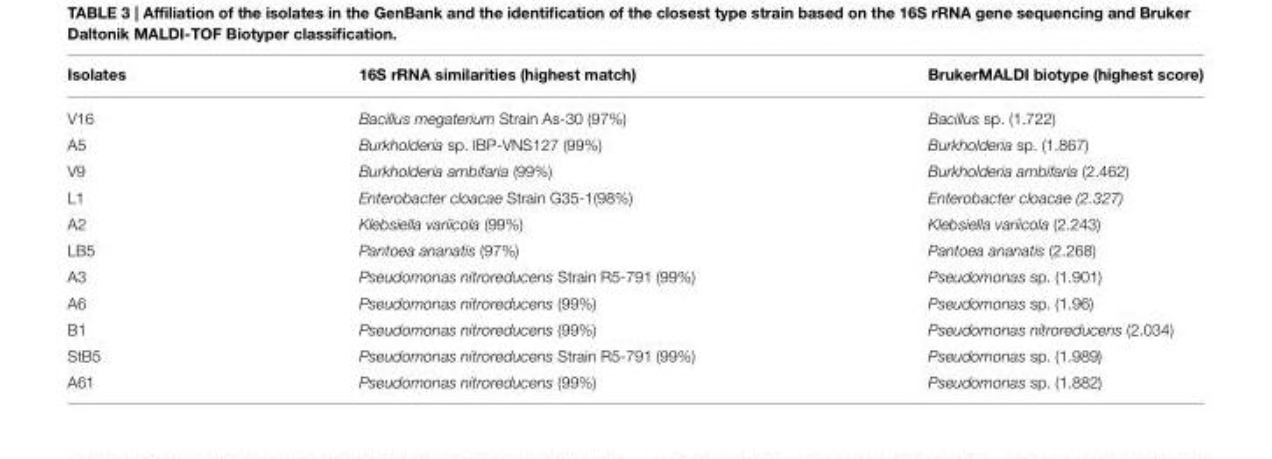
<table><thead><tr><td>Isolates</td><td>16S rRNA similarities (highest match)</td><td>BrukerMALDI biotype (highest score)</td></tr></thead><tbody><tr><td>V16</td><td>Bacillus megaterium Strain As-30 (97%)</td><td>Bacillus sp. (1.722)</td></tr><tr><td>A5</td><td>Burkholderia sp. IBP-VNS127 (99%)</td><td>Burkholderia sp. (1.867)</td></tr><tr><td>V9</td><td>Burkholderia ambifaria (99%)</td><td>Burkholderia ambifaria (2.462)</td></tr><tr><td>L1</td><td>Enterobacter cloacae Strain G35-1(98%)</td><td>Enterobacter cloacae (2.327)</td></tr><tr><td>A2</td><td>Klebsiella variicola (99%)</td><td>Klebsiella variicola (2.243)</td></tr><tr><td>LB5</td><td>Pantoea ananatis (97%)</td><td>Pantoea ananatis (2.268)</td></tr><tr><td>A3</td><td>Pseudomonas nitroreducens Strain R5-791 (99%)</td><td>Pseudomonas sp. (1.901)</td></tr><tr><td>A6</td><td>Pseudomonas nitroreducens (99%)</td><td>Pseudomonas sp. (1.96)</td></tr><tr><td>B1</td><td>Pseudomonas nitroreducens (99%)</td><td>Pseudomonas nitroreducens (2.034)</td></tr><tr><td>StB5</td><td>Pseudomonas nitroreducens Strain R5-791 (99%)</td><td>Pseudomonas sp. (1.989)</td></tr><tr><td>A61</td><td>Pseudomonas nitroreducens (99%)</td><td>Pseudomonas sp. (1.882)</td></tr></tbody></table>